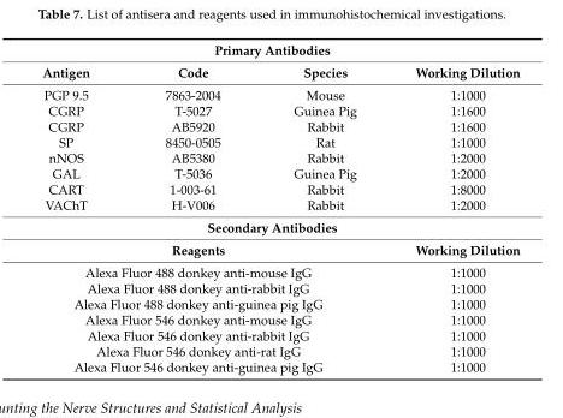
<table><tbody><tr><td colspan="4">Primary Antibodies</td></tr><tr><td>Antigen</td><td>Code</td><td>Species</td><td>Working Dilution</td></tr><tr><td>PGP 9.5</td><td>7863-2004</td><td>Mouse</td><td>1:1000</td></tr><tr><td>CGRP</td><td>T-5027</td><td>Guinea Pig</td><td>1:1600</td></tr><tr><td>CGRP</td><td>AB5920</td><td>Rabbit</td><td>1:1600</td></tr><tr><td>SP</td><td>8450-0505</td><td>Rat</td><td>1:1000</td></tr><tr><td>nNOS</td><td>AB5380</td><td>Rabbit</td><td>1:2000</td></tr><tr><td>GAL</td><td>T-5036</td><td>Guinea Pig</td><td>1:2000</td></tr><tr><td>CART</td><td>1-003-61</td><td>Rabbit</td><td>1:8000</td></tr><tr><td>VAChT</td><td>H-V006</td><td>Rabbit</td><td>1:2000</td></tr><tr><td colspan="4">Secondary Antibodies</td></tr><tr><td colspan="3">Reagents</td><td>Working Dilution</td></tr><tr><td colspan="3">Alexa Fluor 488 donkey anti-mouse IgG</td><td>1:1000</td></tr><tr><td colspan="3">Alexa Fluor 488 donkey anti-rabbit IgG</td><td>1:1000</td></tr><tr><td colspan="3">Alexa Fluor 488 donkey anti-guinea pig IgG</td><td>1:1000</td></tr><tr><td colspan="3">Alexa Fluor 546 donkey anti-mouse IgG</td><td>1:1000</td></tr><tr><td colspan="3">Alexa Fluor 546 donkey anti-rabbit IgG</td><td>1:1000</td></tr><tr><td colspan="3">Alexa Fluor 546 donkey anti-rat IgG</td><td>1:1000</td></tr><tr><td colspan="3">Alexa Fluor 546 donkey anti-guinea pig IgG</td><td>1:1000</td></tr></tbody></table>